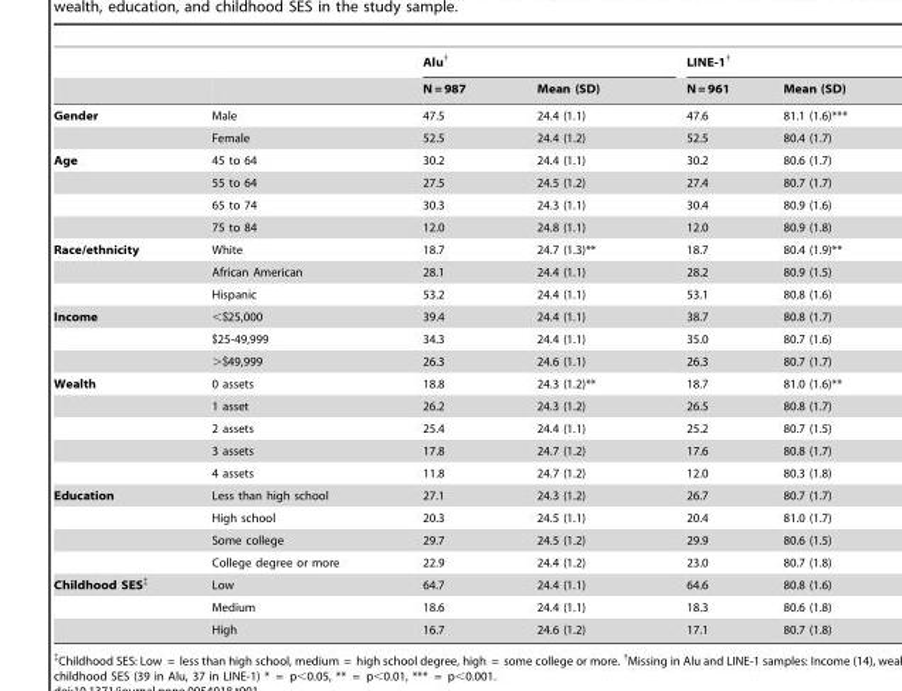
<table><thead><tr><td rowspan="2"></td><td rowspan="2"></td><td colspan="2">Alu<sup>†</sup></td><td colspan="2">LINE-1<sup>†</sup></td></tr><tr><td>N = 987</td><td>Mean (SD)</td><td>N = 961</td><td>Mean (SD)</td></tr></thead><tbody><tr><td rowspan="2">Gender</td><td>Male</td><td>47.5</td><td>24.4 (1.1)</td><td>47.6</td><td>81.1 (1.6)***</td></tr><tr><td>Female</td><td>52.5</td><td>24.4 (1.2)</td><td>52.5</td><td>80.4 (1.7)</td></tr><tr><td rowspan="4">Age</td><td>45 to 64</td><td>30.2</td><td>24.4 (1.1)</td><td>30.2</td><td>80.6 (1.7)</td></tr><tr><td>55 to 64</td><td>27.5</td><td>24.5 (1.2)</td><td>27.4</td><td>80.7 (1.7)</td></tr><tr><td>65 to 74</td><td>30.3</td><td>24.3 (1.1)</td><td>30.4</td><td>80.9 (1.6)</td></tr><tr><td>75 to 84</td><td>12.0</td><td>24.8 (1.1)</td><td>12.0</td><td>80.9 (1.8)</td></tr><tr><td rowspan="3">Race/ethnicity</td><td>White</td><td>18.7</td><td>24.7 (1.3)**</td><td>18.7</td><td>80.4 (1.9)**</td></tr><tr><td>African American</td><td>28.1</td><td>24.4 (1.1)</td><td>28.2</td><td>80.9 (1.5)</td></tr><tr><td>Hispanic</td><td>53.2</td><td>24.4 (1.1)</td><td>53.1</td><td>80.8 (1.6)</td></tr><tr><td rowspan="3">Income</td><td>&lt;$25,000</td><td>39.4</td><td>24.4 (1.1)</td><td>38.7</td><td>80.8 (1.7)</td></tr><tr><td>$25-49,999</td><td>34.3</td><td>24.4 (1.1)</td><td>35.0</td><td>80.7 (1.6)</td></tr><tr><td>&gt;$49,999</td><td>26.3</td><td>24.6 (1.1)</td><td>26.3</td><td>80.7 (1.7)</td></tr><tr><td rowspan="5">Wealth</td><td>0 assets</td><td>18.8</td><td>24.3 (1.2)**</td><td>18.7</td><td>81.0 (1.6)**</td></tr><tr><td>1 asset</td><td>26.2</td><td>24.3 (1.2)</td><td>26.5</td><td>80.8 (1.7)</td></tr><tr><td>2 assets</td><td>25.4</td><td>24.4 (1.1)</td><td>25.2</td><td>80.7 (1.5)</td></tr><tr><td>3 assets</td><td>17.8</td><td>24.7 (1.2)</td><td>17.6</td><td>80.8 (1.7)</td></tr><tr><td>4 assets</td><td>11.8</td><td>24.7 (1.2)</td><td>12.0</td><td>80.3 (1.8)</td></tr><tr><td rowspan="4">Education</td><td>Less than high school</td><td>27.1</td><td>24.3 (1.2)</td><td>26.7</td><td>80.7 (1.7)</td></tr><tr><td>High school</td><td>20.3</td><td>24.5 (1.1)</td><td>20.4</td><td>81.0 (1.7)</td></tr><tr><td>Some college</td><td>29.7</td><td>24.5 (1.2)</td><td>29.9</td><td>80.6 (1.5)</td></tr><tr><td>College degree or more</td><td>22.9</td><td>24.4 (1.2)</td><td>23.0</td><td>80.7 (1.8)</td></tr><tr><td rowspan="3">Childhood SES‡</td><td>Low</td><td>64.7</td><td>24.4 (1.1)</td><td>64.6</td><td>80.8 (1.6)</td></tr><tr><td>Medium</td><td>18.6</td><td>24.4 (1.1)</td><td>18.3</td><td>80.6 (1.8)</td></tr><tr><td>High</td><td>16.7</td><td>24.6 (1.2)</td><td>17.1</td><td>80.7 (1.8)</td></tr></tbody></table>